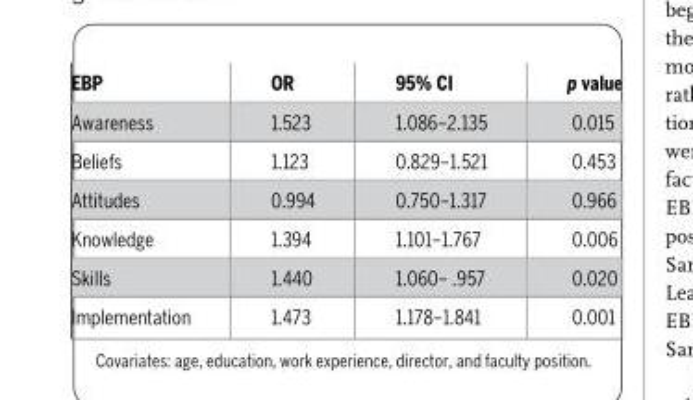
<table><thead><tr><td>EBP</td><td>OR</td><td>95% CI</td><td>p value</td></tr></thead><tbody><tr><td>Awareness</td><td>1.523</td><td>1.086–2.135</td><td>0.015</td></tr><tr><td>Beliefs</td><td>1.123</td><td>0.829–1.521</td><td>0.453</td></tr><tr><td>Attitudes</td><td>0.994</td><td>0.750–1.317</td><td>0.966</td></tr><tr><td>Knowledge</td><td>1.394</td><td>1.101–1.767</td><td>0.006</td></tr><tr><td>Skills</td><td>1.440</td><td>1.060– .957</td><td>0.020</td></tr><tr><td>Implementation</td><td>1.473</td><td>1.178–1.841</td><td>0.001</td></tr></tbody></table>